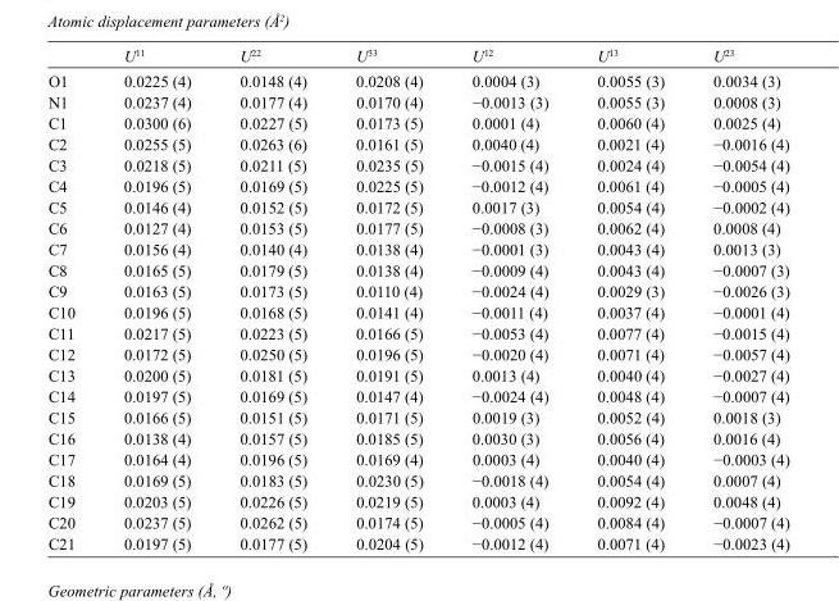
<table><thead><tr><td></td><td>U<sup>11</sup></td><td>U<sup>22</sup></td><td>U<sup>33</sup></td><td>U<sup>12</sup></td><td>U<sup>13</sup></td><td>U<sup>23</sup></td></tr></thead><tbody><tr><td>O1</td><td>0.0225 (4)</td><td>0.0148 (4)</td><td>0.0208 (4)</td><td>0.0004 (3)</td><td>0.0055 (3)</td><td>0.0034 (3)</td></tr><tr><td>N1</td><td>0.0237 (4)</td><td>0.0177 (4)</td><td>0.0170 (4)</td><td>−0.0013 (3)</td><td>0.0055 (3)</td><td>0.0008 (3)</td></tr><tr><td>C1</td><td>0.0300 (6)</td><td>0.0227 (5)</td><td>0.0173 (5)</td><td>0.0001 (4)</td><td>0.0060 (4)</td><td>0.0025 (4)</td></tr><tr><td>C2</td><td>0.0255 (5)</td><td>0.0263 (6)</td><td>0.0161 (5)</td><td>0.0040 (4)</td><td>0.0021 (4)</td><td>−0.0016 (4)</td></tr><tr><td>C3</td><td>0.0218 (5)</td><td>0.0211 (5)</td><td>0.0235 (5)</td><td>−0.0015 (4)</td><td>0.0024 (4)</td><td>−0.0054 (4)</td></tr><tr><td>C4</td><td>0.0196 (5)</td><td>0.0169 (5)</td><td>0.0225 (5)</td><td>−0.0012 (4)</td><td>0.0061 (4)</td><td>−0.0005 (4)</td></tr><tr><td>C5</td><td>0.0146 (4)</td><td>0.0152 (5)</td><td>0.0172 (5)</td><td>0.0017 (3)</td><td>0.0054 (4)</td><td>−0.0002 (4)</td></tr><tr><td>C6</td><td>0.0127 (4)</td><td>0.0153 (5)</td><td>0.0177 (5)</td><td>−0.0008 (3)</td><td>0.0062 (4)</td><td>0.0008 (4)</td></tr><tr><td>C7</td><td>0.0156 (4)</td><td>0.0140 (4)</td><td>0.0138 (4)</td><td>−0.0001 (3)</td><td>0.0043 (4)</td><td>0.0013 (3)</td></tr><tr><td>C8</td><td>0.0165 (5)</td><td>0.0179 (5)</td><td>0.0138 (4)</td><td>−0.0009 (4)</td><td>0.0043 (4)</td><td>−0.0007 (3)</td></tr><tr><td>C9</td><td>0.0163 (5)</td><td>0.0173 (5)</td><td>0.0110 (4)</td><td>−0.0024 (4)</td><td>0.0029 (3)</td><td>−0.0026 (3)</td></tr><tr><td>C10</td><td>0.0196 (5)</td><td>0.0168 (5)</td><td>0.0141 (4)</td><td>−0.0011 (4)</td><td>0.0037 (4)</td><td>−0.0001 (4)</td></tr><tr><td>C11</td><td>0.0217 (5)</td><td>0.0223 (5)</td><td>0.0166 (5)</td><td>−0.0053 (4)</td><td>0.0077 (4)</td><td>−0.0015 (4)</td></tr><tr><td>C12</td><td>0.0172 (5)</td><td>0.0250 (5)</td><td>0.0196 (5)</td><td>−0.0020 (4)</td><td>0.0071 (4)</td><td>−0.0057 (4)</td></tr><tr><td>C13</td><td>0.0200 (5)</td><td>0.0181 (5)</td><td>0.0191 (5)</td><td>0.0013 (4)</td><td>0.0040 (4)</td><td>−0.0027 (4)</td></tr><tr><td>C14</td><td>0.0197 (5)</td><td>0.0169 (5)</td><td>0.0147 (4)</td><td>−0.0024 (4)</td><td>0.0048 (4)</td><td>−0.0007 (4)</td></tr><tr><td>C15</td><td>0.0166 (5)</td><td>0.0151 (5)</td><td>0.0171 (5)</td><td>0.0019 (3)</td><td>0.0052 (4)</td><td>0.0018 (3)</td></tr><tr><td>C16</td><td>0.0138 (4)</td><td>0.0157 (5)</td><td>0.0185 (5)</td><td>0.0030 (3)</td><td>0.0056 (4)</td><td>0.0016 (4)</td></tr><tr><td>C17</td><td>0.0164 (4)</td><td>0.0196 (5)</td><td>0.0169 (4)</td><td>0.0003 (4)</td><td>0.0040 (4)</td><td>−0.0003 (4)</td></tr><tr><td>C18</td><td>0.0169 (5)</td><td>0.0183 (5)</td><td>0.0230 (5)</td><td>−0.0018 (4)</td><td>0.0054 (4)</td><td>0.0007 (4)</td></tr><tr><td>C19</td><td>0.0203 (5)</td><td>0.0226 (5)</td><td>0.0219 (5)</td><td>0.0003 (4)</td><td>0.0092 (4)</td><td>0.0048 (4)</td></tr><tr><td>C20</td><td>0.0237 (5)</td><td>0.0262 (5)</td><td>0.0174 (5)</td><td>−0.0005 (4)</td><td>0.0084 (4)</td><td>−0.0007 (4)</td></tr><tr><td>C21</td><td>0.0197 (5)</td><td>0.0177 (5)</td><td>0.0204 (5)</td><td>−0.0012 (4)</td><td>0.0071 (4)</td><td>−0.0023 (4)</td></tr></tbody></table>